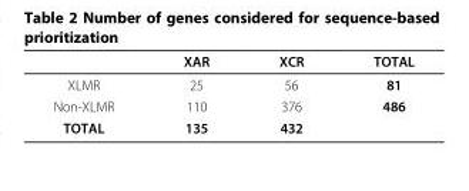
<table><thead><tr><td></td><td>XAR</td><td>XCR</td><td>TOTAL</td></tr></thead><tbody><tr><td>XLMR</td><td>25</td><td>56</td><td>81</td></tr><tr><td>Non-XLMR</td><td>110</td><td>376</td><td>486</td></tr><tr><td>TOTAL</td><td>135</td><td>432</td><td></td></tr></tbody></table>